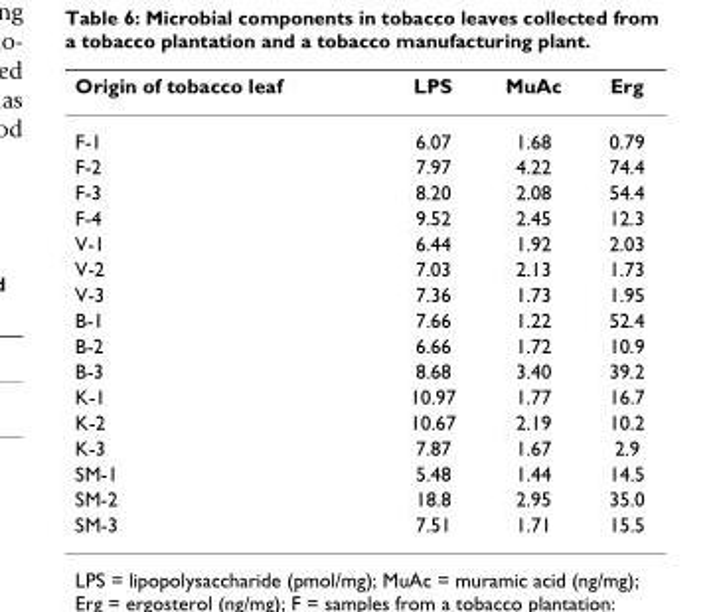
<table><thead><tr><td>Origin of tobacco leaf</td><td>LPS</td><td>MuAc</td><td>Erg</td></tr></thead><tbody><tr><td>F-1</td><td>6.07</td><td>1.68</td><td>0.79</td></tr><tr><td>F-2</td><td>7.97</td><td>4.22</td><td>74.4</td></tr><tr><td>F-3</td><td>8.20</td><td>2.08</td><td>54.4</td></tr><tr><td>F-4</td><td>9.52</td><td>2.45</td><td>12.3</td></tr><tr><td>V-1</td><td>6.44</td><td>1.92</td><td>2.03</td></tr><tr><td>V-2</td><td>7.03</td><td>2.13</td><td>1.73</td></tr><tr><td>V-3</td><td>7.36</td><td>1.73</td><td>1.95</td></tr><tr><td>B-1</td><td>7.66</td><td>1.22</td><td>52.4</td></tr><tr><td>B-2</td><td>6.66</td><td>1.72</td><td>10.9</td></tr><tr><td>B-3</td><td>8.68</td><td>3.40</td><td>39.2</td></tr><tr><td>K-1</td><td>10.97</td><td>1.77</td><td>16.7</td></tr><tr><td>K-2</td><td>10.67</td><td>2.19</td><td>10.2</td></tr><tr><td>K-3</td><td>7.87</td><td>1.67</td><td>2.9</td></tr><tr><td>SM-1</td><td>5.48</td><td>1.44</td><td>14.5</td></tr><tr><td>SM-2</td><td>18.8</td><td>2.95</td><td>35.0</td></tr><tr><td>SM-3</td><td>7.51</td><td>1.71</td><td>15.5</td></tr></tbody></table>